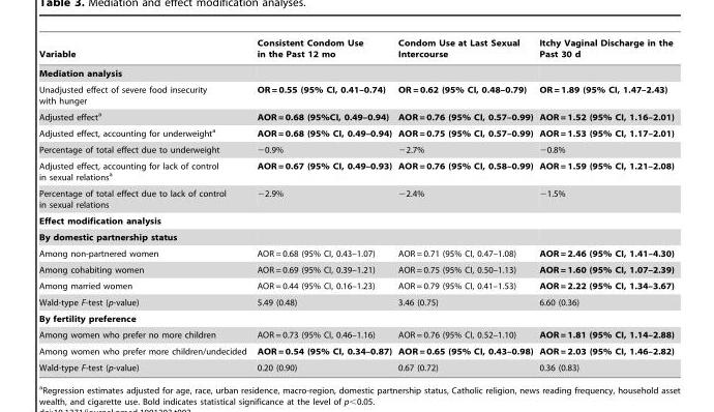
<table><thead><tr><td>Variable</td><td>Consistent Condom Use in the Past 12 mo</td><td>Condom Use at Last Sexual Intercourse</td><td>Itchy Vaginal Discharge in the Past 30 d</td></tr></thead><tbody><tr><td colspan="4">Mediation analysis</td></tr><tr><td>Unadjusted effect of severe food insecurity with hunger</td><td>OR = 0.55 (95% CI, 0.41–0.74)</td><td>OR = 0.62 (95% CI, 0.48–0.79)</td><td>OR = 1.89 (95% CI, 1.47–2.43)</td></tr><tr><td>Adjusted effect<sup>a</sup></td><td>AOR = 0.68 (95%CI, 0.49–0.94)</td><td>AOR = 0.76 (95% CI, 0.57–0.99)</td><td>AOR = 1.52 (95% CI, 1.16–2.01)</td></tr><tr><td>Adjusted effect, accounting for underweight<sup>a</sup></td><td>AOR = 0.68 (95% CI, 0.49–0.94)</td><td>AOR = 0.75 (95% CI, 0.57–0.99)</td><td>AOR = 1.53 (95% CI, 1.17–2.01)</td></tr><tr><td>Percentage of total effect due to underweight</td><td>−0.9%</td><td>−2.7%</td><td>−0.8%</td></tr><tr><td>Adjusted effect, accounting for lack of control in sexual relations<sup>a</sup></td><td>AOR = 0.67 (95% CI, 0.49–0.93)</td><td>AOR = 0.76 (95% CI, 0.58–0.99)</td><td>AOR = 1.59 (95% CI, 1.21–2.08)</td></tr><tr><td>Percentage of total effect due to lack of control in sexual relations</td><td>−2.9%</td><td>−2.4%</td><td>−1.5%</td></tr><tr><td colspan="4">Effect modification analysis</td></tr><tr><td colspan="4">By domestic partnership status</td></tr><tr><td>Among non-partnered women</td><td>AOR = 0.68 (95% CI, 0.43–1.07)</td><td>AOR = 0.71 (95% CI, 0.47–1.08)</td><td>AOR = 2.46 (95% CI, 1.41–4.30)</td></tr><tr><td>Among cohabiting women</td><td>AOR = 0.69 (95% CI, 0.39–1.21)</td><td>AOR = 0.75 (95% CI, 0.50–1.13)</td><td>AOR = 1.60 (95% CI, 1.07–2.39)</td></tr><tr><td>Among married women</td><td>AOR = 0.44 (95% CI, 0.16–1.23)</td><td>AOR = 0.79 (95% CI, 0.41–1.53)</td><td>AOR = 2.22 (95% CI, 1.34–3.67)</td></tr><tr><td>Wald-type F-test (p-value)</td><td>5.49 (0.48)</td><td>3.46 (0.75)</td><td>6.60 (0.36)</td></tr><tr><td colspan="4">By fertility preference</td></tr><tr><td>Among women who prefer no more children</td><td>AOR = 0.73 (95% CI, 0.46–1.16)</td><td>AOR = 0.76 (95% CI, 0.52–1.10)</td><td>AOR = 1.81 (95% CI, 1.14–2.88)</td></tr><tr><td>Among women who prefer more children/undecided</td><td>AOR = 0.54 (95% CI, 0.34–0.87)</td><td>AOR = 0.65 (95% CI, 0.43–0.98)</td><td>AOR = 2.03 (95% CI, 1.46–2.82)</td></tr><tr><td>Wald-type F-test (p-value)</td><td>0.20 (0.90)</td><td>0.67 (0.72)</td><td>0.36 (0.83)</td></tr></tbody></table>